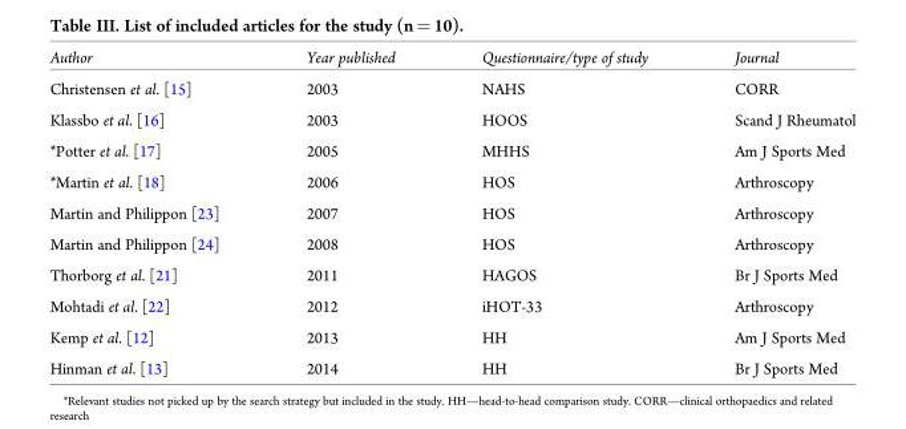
<table><thead><tr><td>Author</td><td>Year published</td><td>Questionnaire/type of study</td><td>Journal</td></tr></thead><tbody><tr><td>Christensen et al. [15]</td><td>2003</td><td>NAHS</td><td>CORR</td></tr><tr><td>Klassbo et al. [16]</td><td>2003</td><td>HOOS</td><td>Scand J Rheumatol</td></tr><tr><td>*Potter et al. [17]</td><td>2005</td><td>MHHS</td><td>Am J Sports Med</td></tr><tr><td>*Martin et al. [18]</td><td>2006</td><td>HOS</td><td>Arthroscopy</td></tr><tr><td>Martin and Philippon [23]</td><td>2007</td><td>HOS</td><td>Arthroscopy</td></tr><tr><td>Martin and Philippon [24]</td><td>2008</td><td>HOS</td><td>Arthroscopy</td></tr><tr><td>Thorborg et al. [21]</td><td>2011</td><td>HAGOS</td><td>Br J Sports Med</td></tr><tr><td>Mohtadi et al. [22]</td><td>2012</td><td>iHOT-33</td><td>Arthroscopy</td></tr><tr><td>Kemp et al. [12]</td><td>2013</td><td>HH</td><td>Am J Sports Med</td></tr><tr><td>Hinman et al. [13]</td><td>2014</td><td>HH</td><td>Br J Sports Med</td></tr></tbody></table>